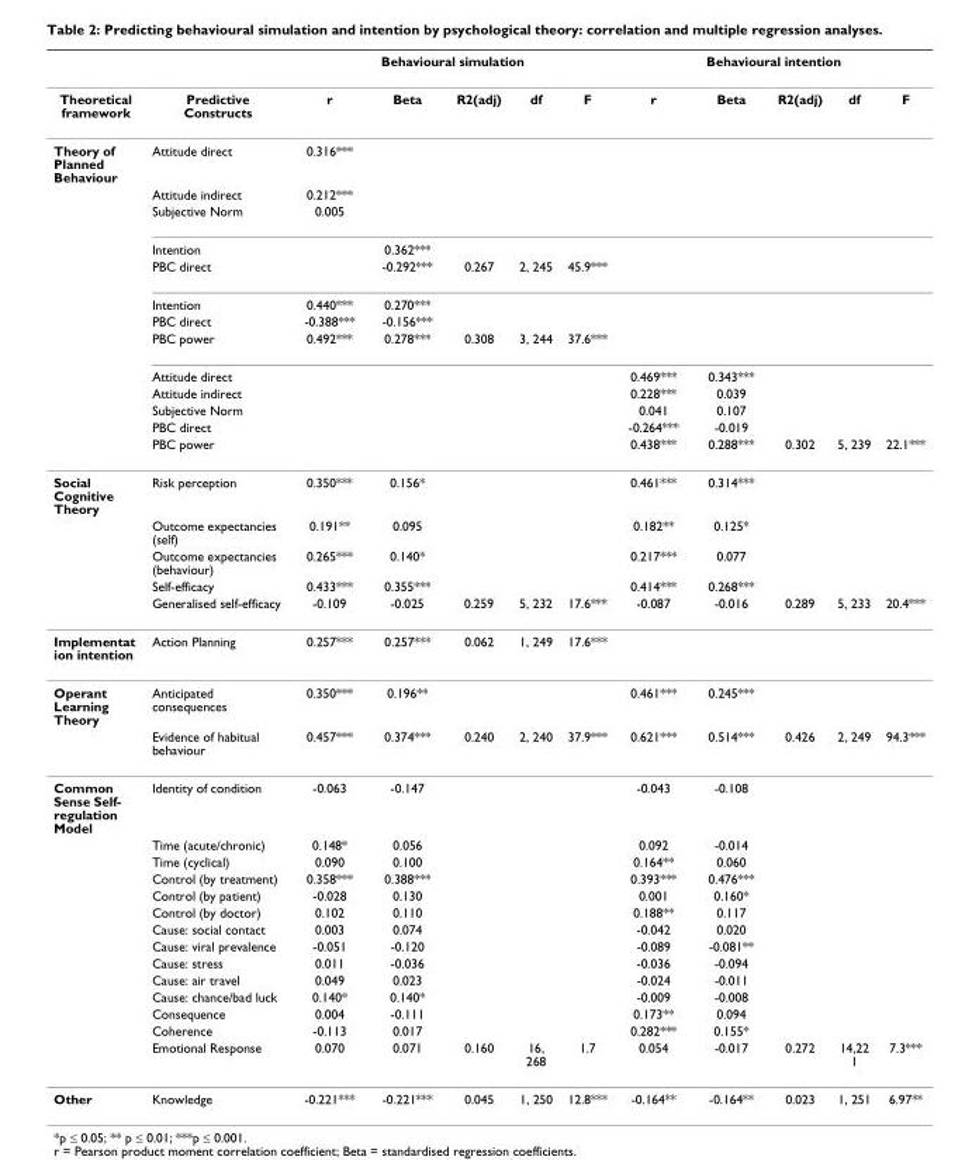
<table><thead><tr><td rowspan="2">Theoretical framework</td><td rowspan="2">Predictive Constructs</td><td colspan="5">Behavioural simulation</td><td colspan="5">Behavioural intention</td></tr><tr><td>r</td><td>Beta</td><td>R2(adj)</td><td>df</td><td>F</td><td>r</td><td>Beta</td><td>R2(adj)</td><td>df</td><td>F</td></tr></thead><tbody><tr><td rowspan="13">Theory of Planned Behaviour</td><td>Attitude direct</td><td>0.316***</td><td></td><td></td><td></td><td></td><td></td><td></td><td></td><td></td><td></td></tr><tr><td>Attitude indirect</td><td>0.212***</td><td></td><td></td><td></td><td></td><td></td><td></td><td></td><td></td><td></td></tr><tr><td>Subjective Norm</td><td>0.005</td><td></td><td></td><td></td><td></td><td></td><td></td><td></td><td></td><td></td></tr><tr><td>Intention</td><td></td><td>0.362***</td><td></td><td></td><td></td><td></td><td></td><td></td><td></td><td></td></tr><tr><td>PBC direct</td><td></td><td>-0.292***</td><td>0.267</td><td>2, 245</td><td>45.9***</td><td></td><td></td><td></td><td></td><td></td></tr><tr><td>Intention</td><td>0.440***</td><td>0.270***</td><td></td><td></td><td></td><td></td><td></td><td></td><td></td><td></td></tr><tr><td>PBC direct</td><td>-0.388***</td><td>-0.156***</td><td></td><td></td><td></td><td></td><td></td><td></td><td></td><td></td></tr><tr><td>PBC power</td><td>0.492***</td><td>0.278***</td><td>0.308</td><td>3, 244</td><td>37.6***</td><td></td><td></td><td></td><td></td><td></td></tr><tr><td>Attitude direct</td><td></td><td></td><td></td><td></td><td></td><td>0.469***</td><td>0.343***</td><td></td><td></td><td></td></tr><tr><td>Attitude indirect</td><td></td><td></td><td></td><td></td><td></td><td>0.228***</td><td>0.039</td><td></td><td></td><td></td></tr><tr><td>Subjective Norm</td><td></td><td></td><td></td><td></td><td></td><td>0.041</td><td>0.107</td><td></td><td></td><td></td></tr><tr><td>PBC direct</td><td></td><td></td><td></td><td></td><td></td><td>-0.264***</td><td>-0.019</td><td></td><td></td><td></td></tr><tr><td>PBC power</td><td></td><td></td><td></td><td></td><td></td><td>0.438***</td><td>0.288***</td><td>0.302</td><td>5, 239</td><td>22.1***</td></tr><tr><td rowspan="5">Social Cognitive Theory</td><td>Risk perception</td><td>0.350***</td><td>0.156*</td><td></td><td></td><td></td><td>0.461***</td><td>0.314***</td><td></td><td></td><td></td></tr><tr><td>Outcome expectancies (self)</td><td>0.191**</td><td>0.095</td><td></td><td></td><td></td><td>0.182**</td><td>0.125*</td><td></td><td></td><td></td></tr><tr><td>Outcome expectancies (behaviour)</td><td>0.265***</td><td>0.140*</td><td></td><td></td><td></td><td>0.217***</td><td>0.077</td><td></td><td></td><td></td></tr><tr><td>Self-efficacy</td><td>0.433***</td><td>0.355***</td><td></td><td></td><td></td><td>0.414***</td><td>0.268***</td><td></td><td></td><td></td></tr><tr><td>Generalised self-efficacy</td><td>-0.109</td><td>-0.025</td><td>0.259</td><td>5, 232</td><td>17.6***</td><td>-0.087</td><td>-0.016</td><td>0.289</td><td>5, 233</td><td>20.4***</td></tr><tr><td>Implementat ion intention</td><td>Action Planning</td><td>0.257***</td><td>0.257***</td><td>0.062</td><td>1, 249</td><td>17.6***</td><td></td><td></td><td></td><td></td><td></td></tr><tr><td rowspan="2">Operant Learning Theory</td><td>Anticipated consequences</td><td>0.350***</td><td>0.196**</td><td></td><td></td><td></td><td>0.461***</td><td>0.245***</td><td></td><td></td><td></td></tr><tr><td>Evidence of habitual behaviour</td><td>0.457***</td><td>0.374***</td><td>0.240</td><td>2, 240</td><td>37.9***</td><td>0.621***</td><td>0.514***</td><td>0.426</td><td>2, 249</td><td>94.3***</td></tr><tr><td rowspan="14">Common Sense Self- regulation Model</td><td>Identity of condition</td><td>-0.063</td><td>-0.147</td><td></td><td></td><td></td><td>-0.043</td><td>-0.108</td><td></td><td></td><td></td></tr><tr><td>Time (acute/chronic)</td><td>0.148*</td><td>0.056</td><td></td><td></td><td></td><td>0.092</td><td>-0.014</td><td></td><td></td><td></td></tr><tr><td>Time (cyclical)</td><td>0.090</td><td>0.100</td><td></td><td></td><td></td><td>0.164**</td><td>0.060</td><td></td><td></td><td></td></tr><tr><td>Control (by treatment)</td><td>0.358***</td><td>0.388***</td><td></td><td></td><td></td><td>0.393***</td><td>0.476***</td><td></td><td></td><td></td></tr><tr><td>Control (by patient)</td><td>-0.028</td><td>0.130</td><td></td><td></td><td></td><td>0.001</td><td>0.160*</td><td></td><td></td><td></td></tr><tr><td>Control (by doctor)</td><td>0.102</td><td>0.110</td><td></td><td></td><td></td><td>0.188**</td><td>0.117</td><td></td><td></td><td></td></tr><tr><td>Cause: social contact</td><td>0.003</td><td>0.074</td><td></td><td></td><td></td><td>-0.042</td><td>0.020</td><td></td><td></td><td></td></tr><tr><td>Cause: viral prevalence</td><td>-0.051</td><td>-0.120</td><td></td><td></td><td></td><td>-0.089</td><td>-0.081**</td><td></td><td></td><td></td></tr><tr><td>Cause: stress</td><td>0.011</td><td>-0.036</td><td></td><td></td><td></td><td>-0.036</td><td>-0.094</td><td></td><td></td><td></td></tr><tr><td>Cause: air travel</td><td>0.049</td><td>0.023</td><td></td><td></td><td></td><td>-0.024</td><td>-0.011</td><td></td><td></td><td></td></tr><tr><td>Cause: chance/bad luck</td><td>0.140*</td><td>0.140*</td><td></td><td></td><td></td><td>-0.009</td><td>-0.008</td><td></td><td></td><td></td></tr><tr><td>Consequence</td><td>0.004</td><td>-0.111</td><td></td><td></td><td></td><td>0.173**</td><td>0.094</td><td></td><td></td><td></td></tr><tr><td>Coherence</td><td>-0.113</td><td>0.017</td><td></td><td></td><td></td><td>0.282***</td><td>0.155*</td><td></td><td></td><td></td></tr><tr><td>Emotional Response</td><td>0.070</td><td>0.071</td><td>0.160</td><td>16, 268</td><td>1.7</td><td>0.054</td><td>-0.017</td><td>0.272</td><td>14,22 1</td><td>7.3***</td></tr><tr><td>Other</td><td>Knowledge</td><td>-0.221***</td><td>-0.221***</td><td>0.045</td><td>1, 250</td><td>12.8***</td><td>-0.164**</td><td>-0.164**</td><td>0.023</td><td>1, 251</td><td>6.97**</td></tr></tbody></table>